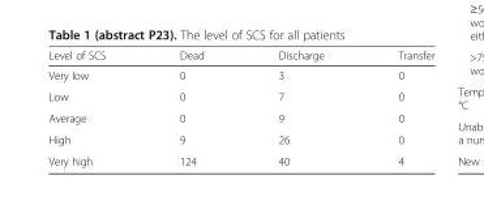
<table><thead><tr><td>Level of SCS</td><td>Dead</td><td>Discharge</td><td>Transfer</td></tr></thead><tbody><tr><td>Very low</td><td>0</td><td>3</td><td>0</td></tr><tr><td>Low</td><td>0</td><td>7</td><td>0</td></tr><tr><td>Average</td><td>0</td><td>9</td><td>0</td></tr><tr><td>High</td><td>9</td><td>26</td><td>0</td></tr><tr><td>Very high</td><td>124</td><td>40</td><td>4</td></tr></tbody></table>